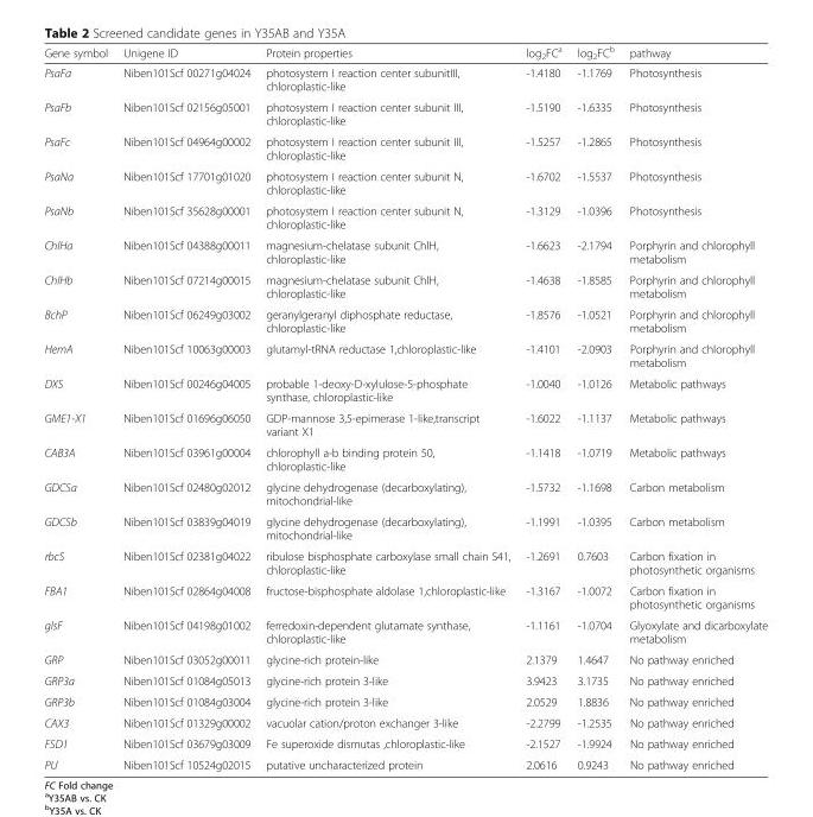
<table><thead><tr><td>Gene symbol</td><td>Unigene ID</td><td>Protein properties</td><td>log<sub>2</sub>FC<sup>a</sup></td><td>log<sub>2</sub>FC<sup>b</sup></td><td>pathway</td></tr></thead><tbody><tr><td>PsaFa</td><td>Niben101Scf 00271g04024</td><td>photosystem I reaction center subunitIII, chloroplastic-like</td><td>-1.4180</td><td>-1.1769</td><td>Photosynthesis</td></tr><tr><td>PsaFb</td><td>Niben101Scf 02156g05001</td><td>photosystem I reaction center subunit III, chloroplastic-like</td><td>-1.5190</td><td>-1.6335</td><td>Photosynthesis</td></tr><tr><td>PsaFc</td><td>Niben101Scf 04964g00002</td><td>photosystem I reaction center subunit III, chloroplastic-like</td><td>-1.5257</td><td>-1.2865</td><td>Photosynthesis</td></tr><tr><td>PsaNa</td><td>Niben101Scf 17701g01020</td><td>photosystem I reaction center subunit N, chloroplastic-like</td><td>-1.6702</td><td>-1.5537</td><td>Photosynthesis</td></tr><tr><td>PsaNb</td><td>Niben101Scf 35628g00001</td><td>photosystem I reaction center subunit N, chloroplastic-like</td><td>-1.3129</td><td>-1.0396</td><td>Photosynthesis</td></tr><tr><td>ChlHa</td><td>Niben101Scf 04388g00011</td><td>magnesium-chelatase subunit ChlH, chloroplastic-like</td><td>-1.6623</td><td>-2.1794</td><td>Porphyrin and chlorophyll metabolism</td></tr><tr><td>ChlHb</td><td>Niben101Scf 07214g00015</td><td>magnesium-chelatase subunit ChlH, chloroplastic-like</td><td>-1.4638</td><td>-1.8585</td><td>Porphyrin and chlorophyll metabolism</td></tr><tr><td>BchP</td><td>Niben101Scf 06249g03002</td><td>geranylgeranyl diphosphate reductase, chloroplastic-like</td><td>-1.8576</td><td>-1.0521</td><td>Porphyrin and chlorophyll metabolism</td></tr><tr><td>HemA</td><td>Niben101Scf 10063g00003</td><td>glutamyl-tRNA reductase 1,chloroplastic-like</td><td>-1.4101</td><td>-2.0903</td><td>Porphyrin and chlorophyll metabolism</td></tr><tr><td>DXS</td><td>Niben101Scf 00246g04005</td><td>probable 1-deoxy-D-xylulose-5-phosphate synthase, chloroplastic-like</td><td>-1.0040</td><td>-1.0126</td><td>Metabolic pathways</td></tr><tr><td>GME1-X1</td><td>Niben101Scf 01696g06050</td><td>GDP-mannose 3,5-epimerase 1-like,transcript variant X1</td><td>-1.6022</td><td>-1.1137</td><td>Metabolic pathways</td></tr><tr><td>CAB3A</td><td>Niben101Scf 03961g00004</td><td>chlorophyll a-b binding protein 50, chloroplastic-like</td><td>-1.1418</td><td>-1.0719</td><td>Metabolic pathways</td></tr><tr><td>GDCSa</td><td>Niben101Scf 02480g02012</td><td>glycine dehydrogenase (decarboxylating), mitochondrial-like</td><td>-1.5732</td><td>-1.1698</td><td>Carbon metabolism</td></tr><tr><td>GDCSb</td><td>Niben101Scf 03839g04019</td><td>glycine dehydrogenase (decarboxylating), mitochondrial-like</td><td>-1.1991</td><td>-1.0395</td><td>Carbon metabolism</td></tr><tr><td>rbcS</td><td>Niben101Scf 02381g04022</td><td>ribulose bisphosphate carboxylase small chain S41, chloroplastic-like</td><td>-1.2691</td><td>0.7603</td><td>Carbon fixation in photosynthetic organisms</td></tr><tr><td>FBA1</td><td>Niben101Scf 02864g04008</td><td>fructose-bisphosphate aldolase 1,chloroplastic-like</td><td>-1.3167</td><td>-1.0072</td><td>Carbon fixation in photosynthetic organisms</td></tr><tr><td>glsF</td><td>Niben101Scf 04198g01002</td><td>ferredoxin-dependent glutamate synthase, chloroplastic-like</td><td>-1.1161</td><td>-1.0704</td><td>Glyoxylate and dicarboxylate metabolism</td></tr><tr><td>GRP</td><td>Niben101Scf 03052g00011</td><td>glycine-rich protein-like</td><td>2.1379</td><td>1.4647</td><td>No pathway enriched</td></tr><tr><td>GRP3a</td><td>Niben101Scf 01084g05013</td><td>glycine-rich protein 3-like</td><td>3.9423</td><td>3.1735</td><td>No pathway enriched</td></tr><tr><td>GRP3b</td><td>Niben101Scf 01084g03004</td><td>glycine-rich protein 3-like</td><td>2.0529</td><td>1.8836</td><td>No pathway enriched</td></tr><tr><td>CAX3</td><td>Niben101Scf 01329g00002</td><td>vacuolar cation/proton exchanger 3-like</td><td>-2.2799</td><td>-1.2535</td><td>No pathway enriched</td></tr><tr><td>FSD1</td><td>Niben101Scf 03679g03009</td><td>Fe superoxide dismutas ,chloroplastic-like</td><td>-2.1527</td><td>-1.9924</td><td>No pathway enriched</td></tr><tr><td>PU</td><td>Niben101Scf 10524g02015</td><td>putative uncharacterized protein</td><td>2.0616</td><td>0.9243</td><td>No pathway enriched</td></tr></tbody></table>